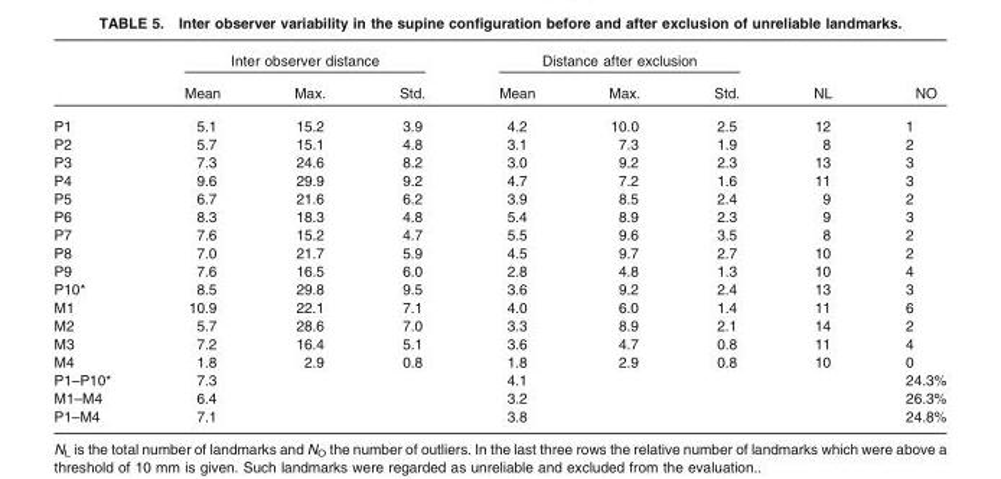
<table><thead><tr><td rowspan="2"></td><td colspan="3">Inter observer distance</td><td colspan="3">Distance after exclusion</td><td rowspan="2">NL</td><td rowspan="2">NO</td></tr><tr><td>Mean</td><td>Max.</td><td>Std.</td><td>Mean</td><td>Max.</td><td>Std.</td></tr></thead><tbody><tr><td>P1</td><td>5.1</td><td>15.2</td><td>3.9</td><td>4.2</td><td>10.0</td><td>2.5</td><td>12</td><td>1</td></tr><tr><td>P2</td><td>5.7</td><td>15.1</td><td>4.8</td><td>3.1</td><td>7.3</td><td>1.9</td><td>8</td><td>2</td></tr><tr><td>P3</td><td>7.3</td><td>24.6</td><td>8.2</td><td>3.0</td><td>9.2</td><td>2.3</td><td>13</td><td>3</td></tr><tr><td>P4</td><td>9.6</td><td>29.9</td><td>9.2</td><td>4.7</td><td>7.2</td><td>1.6</td><td>11</td><td>3</td></tr><tr><td>P5</td><td>6.7</td><td>21.6</td><td>6.2</td><td>3.9</td><td>8.5</td><td>2.4</td><td>9</td><td>2</td></tr><tr><td>P6</td><td>8.3</td><td>18.3</td><td>4.8</td><td>5.4</td><td>8.9</td><td>2.3</td><td>9</td><td>3</td></tr><tr><td>P7</td><td>7.6</td><td>15.2</td><td>4.7</td><td>5.5</td><td>9.6</td><td>3.5</td><td>8</td><td>2</td></tr><tr><td>P8</td><td>7.0</td><td>21.7</td><td>5.9</td><td>4.5</td><td>9.7</td><td>2.7</td><td>10</td><td>2</td></tr><tr><td>P9</td><td>7.6</td><td>16.5</td><td>6.0</td><td>2.8</td><td>4.8</td><td>1.3</td><td>10</td><td>4</td></tr><tr><td>P10*</td><td>8.5</td><td>29.8</td><td>9.5</td><td>3.6</td><td>9.2</td><td>2.4</td><td>13</td><td>3</td></tr><tr><td>M1</td><td>10.9</td><td>22.1</td><td>7.1</td><td>4.0</td><td>6.0</td><td>1.4</td><td>11</td><td>6</td></tr><tr><td>M2</td><td>5.7</td><td>28.6</td><td>7.0</td><td>3.3</td><td>8.9</td><td>2.1</td><td>14</td><td>2</td></tr><tr><td>M3</td><td>7.2</td><td>16.4</td><td>5.1</td><td>3.6</td><td>4.7</td><td>0.8</td><td>11</td><td>4</td></tr><tr><td>M4</td><td>1.8</td><td>2.9</td><td>0.8</td><td>1.8</td><td>2.9</td><td>0.8</td><td>10</td><td>0</td></tr><tr><td>P1–P10*</td><td>7.3</td><td></td><td></td><td>4.1</td><td></td><td></td><td></td><td>24.3%</td></tr><tr><td>M1–M4</td><td>6.4</td><td></td><td></td><td>3.2</td><td></td><td></td><td></td><td>26.3%</td></tr><tr><td>P1–M4</td><td>7.1</td><td></td><td></td><td>3.8</td><td></td><td></td><td></td><td>24.8%</td></tr></tbody></table>